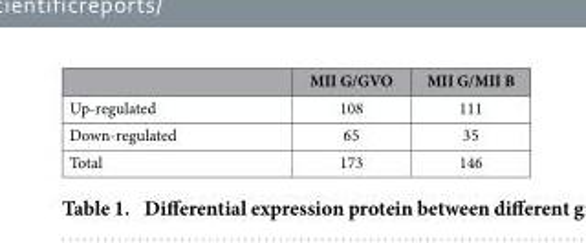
<table><thead><tr><td></td><td>MII G/GVO</td><td>MII G/MII B</td></tr></thead><tbody><tr><td>Up-regulated</td><td>108</td><td>111</td></tr><tr><td>Down-regulated</td><td>65</td><td>35</td></tr><tr><td>Total</td><td>173</td><td>146</td></tr></tbody></table>